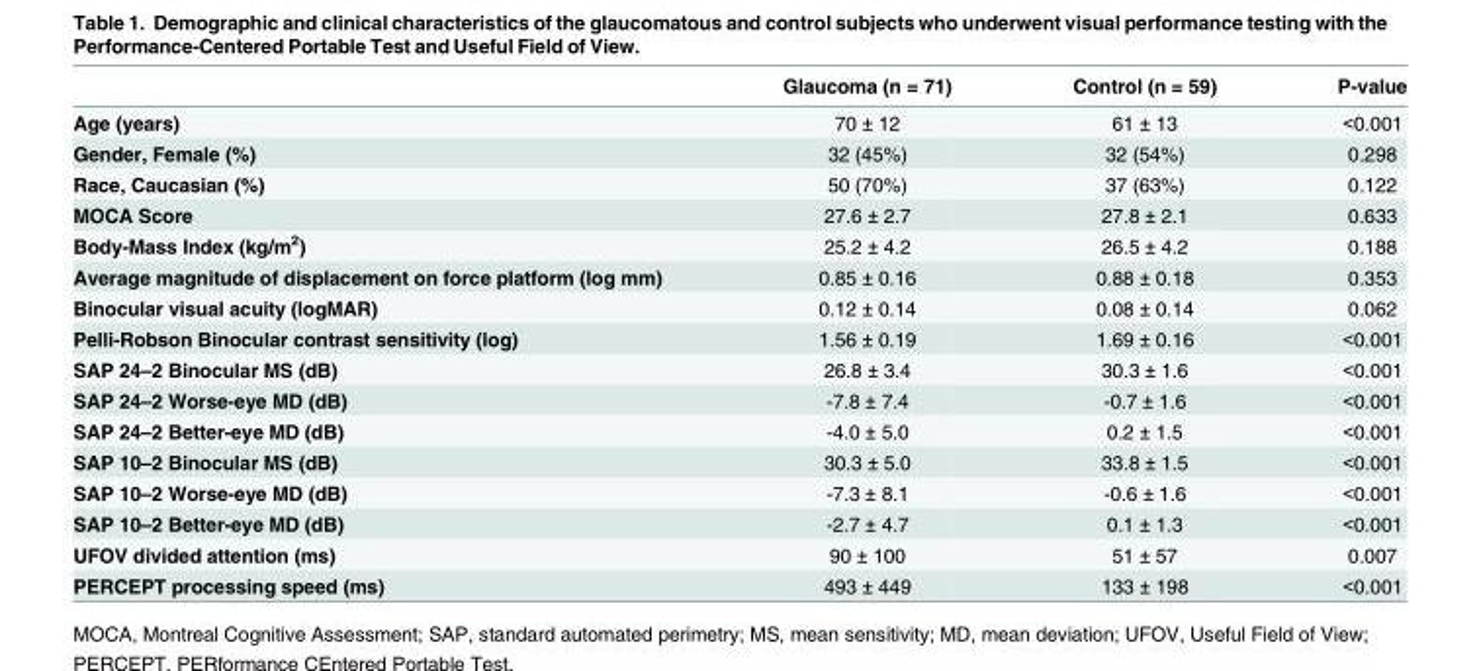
<table><thead><tr><td></td><td>Glaucoma (n = 71)</td><td>Control (n = 59)</td><td>P-value</td></tr></thead><tbody><tr><td>Age (years)</td><td>70 ± 12</td><td>61 ± 13</td><td>&lt;0.001</td></tr><tr><td>Gender, Female (%)</td><td>32 (45%)</td><td>32 (54%)</td><td>0.298</td></tr><tr><td>Race, Caucasian (%)</td><td>50 (70%)</td><td>37 (63%)</td><td>0.122</td></tr><tr><td>MOCA Score</td><td>27.6 ± 2.7</td><td>27.8 ± 2.1</td><td>0.633</td></tr><tr><td>Body-Mass Index (kg/m<sup>2</sup>)</td><td>25.2 ± 4.2</td><td>26.5 ± 4.2</td><td>0.188</td></tr><tr><td>Average magnitude of displacement on force platform (log mm)</td><td>0.85 ± 0.16</td><td>0.88 ± 0.18</td><td>0.353</td></tr><tr><td>Binocular visual acuity (logMAR)</td><td>0.12 ± 0.14</td><td>0.08 ± 0.14</td><td>0.062</td></tr><tr><td>Pelli-Robson Binocular contrast sensitivity (log)</td><td>1.56 ± 0.19</td><td>1.69 ± 0.16</td><td>&lt;0.001</td></tr><tr><td>SAP 24–2 Binocular MS (dB)</td><td>26.8 ± 3.4</td><td>30.3 ± 1.6</td><td>&lt;0.001</td></tr><tr><td>SAP 24–2 Worse-eye MD (dB)</td><td>-7.8 ± 7.4</td><td>-0.7 ± 1.6</td><td>&lt;0.001</td></tr><tr><td>SAP 24–2 Better-eye MD (dB)</td><td>-4.0 ± 5.0</td><td>0.2 ± 1.5</td><td>&lt;0.001</td></tr><tr><td>SAP 10–2 Binocular MS (dB)</td><td>30.3 ± 5.0</td><td>33.8 ± 1.5</td><td>&lt;0.001</td></tr><tr><td>SAP 10–2 Worse-eye MD (dB)</td><td>-7.3 ± 8.1</td><td>-0.6 ± 1.6</td><td>&lt;0.001</td></tr><tr><td>SAP 10–2 Better-eye MD (dB)</td><td>-2.7 ± 4.7</td><td>0.1 ± 1.3</td><td>&lt;0.001</td></tr><tr><td>UFOV divided attention (ms)</td><td>90 ± 100</td><td>51 ± 57</td><td>0.007</td></tr><tr><td>PERCEPT processing speed (ms)</td><td>493 ± 449</td><td>133 ± 198</td><td>&lt;0.001</td></tr></tbody></table>